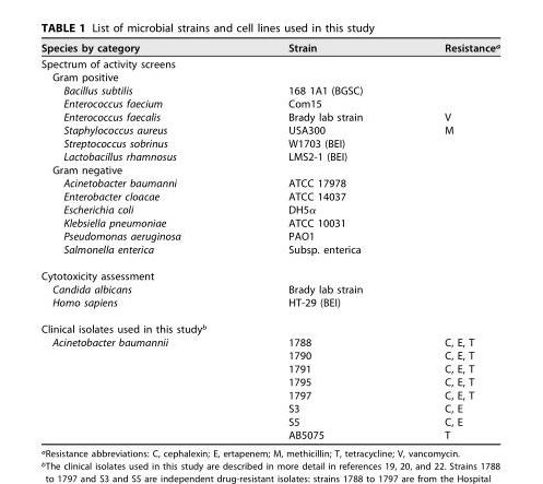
<table><thead><tr><td>Species by category</td><td>Strain</td><td>Resistance<sup>a</sup></td></tr></thead><tbody><tr><td colspan="3">Spectrum of activity screens</td></tr><tr><td colspan="3">Gram positive</td></tr><tr><td>Bacillus subtilis</td><td>168 1A1 (BGSC)</td><td></td></tr><tr><td>Enterococcus faecium</td><td>Com15</td><td></td></tr><tr><td>Enterococcus faecalis</td><td>Brady lab strain</td><td>V</td></tr><tr><td>Staphylococcus aureus</td><td>USA300</td><td>M</td></tr><tr><td>Streptococcus sobrinus</td><td>W1703 (BEI)</td><td></td></tr><tr><td>Lactobacillus rhamnosus</td><td>LMS2-1 (BEI)</td><td></td></tr><tr><td colspan="3">Gram negative</td></tr><tr><td>Acinetobacter baumanni</td><td>ATCC 17978</td><td></td></tr><tr><td>Enterobacter cloacae</td><td>ATCC 14037</td><td></td></tr><tr><td>Escherichia coli</td><td>DH5α</td><td></td></tr><tr><td>Klebsiella pneumoniae</td><td>ATCC 10031</td><td></td></tr><tr><td>Pseudomonas aeruginosa</td><td>PAO1</td><td></td></tr><tr><td>Salmonella enterica</td><td>Subsp. enterica</td><td></td></tr><tr><td colspan="3">Cytotoxicity assessment</td></tr><tr><td>Candida albicans</td><td>Brady lab strain</td><td></td></tr><tr><td>Homo sapiens</td><td>HT-29 (BEI)</td><td></td></tr><tr><td colspan="3">Clinical isolates used in this study<sup>b</sup></td></tr><tr><td rowspan="8">Acinetobacter baumannii</td><td>1788</td><td>C, E, T</td></tr><tr><td>1790</td><td>C, E, T</td></tr><tr><td>1791</td><td>C, E, T</td></tr><tr><td>1795</td><td>C, E, T</td></tr><tr><td>1797</td><td>C, E, T</td></tr><tr><td>S3</td><td>C, E</td></tr><tr><td>S5</td><td>C, E</td></tr><tr><td>AB5075</td><td>T</td></tr></tbody></table>